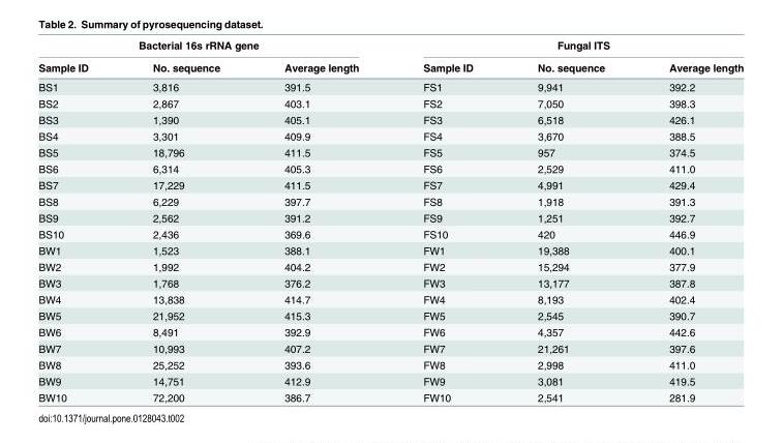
<table><thead><tr><td colspan="3">Bacterial 16s rRNA gene</td><td colspan="3">Fungal ITS</td></tr><tr><td>Sample ID</td><td>No. sequence</td><td>Average length</td><td>Sample ID</td><td>No. sequence</td><td>Average length</td></tr></thead><tbody><tr><td>BS1</td><td>3,816</td><td>391.5</td><td>FS1</td><td>9,941</td><td>392.2</td></tr><tr><td>BS2</td><td>2,867</td><td>403.1</td><td>FS2</td><td>7,050</td><td>398.3</td></tr><tr><td>BS3</td><td>1,390</td><td>405.1</td><td>FS3</td><td>6,518</td><td>426.1</td></tr><tr><td>BS4</td><td>3,301</td><td>409.9</td><td>FS4</td><td>3,670</td><td>388.5</td></tr><tr><td>BS5</td><td>18,796</td><td>411.5</td><td>FS5</td><td>957</td><td>374.5</td></tr><tr><td>BS6</td><td>6,314</td><td>405.3</td><td>FS6</td><td>2,529</td><td>411.0</td></tr><tr><td>BS7</td><td>17,229</td><td>411.5</td><td>FS7</td><td>4,991</td><td>429.4</td></tr><tr><td>BS8</td><td>6,229</td><td>397.7</td><td>FS8</td><td>1,918</td><td>391.3</td></tr><tr><td>BS9</td><td>2,562</td><td>391.2</td><td>FS9</td><td>1,251</td><td>392.7</td></tr><tr><td>BS10</td><td>2,436</td><td>369.6</td><td>FS10</td><td>420</td><td>446.9</td></tr><tr><td>BW1</td><td>1,523</td><td>388.1</td><td>FW1</td><td>19,388</td><td>400.1</td></tr><tr><td>BW2</td><td>1,992</td><td>404.2</td><td>FW2</td><td>15,294</td><td>377.9</td></tr><tr><td>BW3</td><td>1,768</td><td>376.2</td><td>FW3</td><td>13,177</td><td>387.8</td></tr><tr><td>BW4</td><td>13,838</td><td>414.7</td><td>FW4</td><td>8,193</td><td>402.4</td></tr><tr><td>BW5</td><td>21,952</td><td>415.3</td><td>FW5</td><td>2,545</td><td>390.7</td></tr><tr><td>BW6</td><td>8,491</td><td>392.9</td><td>FW6</td><td>4,357</td><td>442.6</td></tr><tr><td>BW7</td><td>10,993</td><td>407.2</td><td>FW7</td><td>21,261</td><td>397.6</td></tr><tr><td>BW8</td><td>25,252</td><td>393.6</td><td>FW8</td><td>2,998</td><td>411.0</td></tr><tr><td>BW9</td><td>14,751</td><td>412.9</td><td>FW9</td><td>3,081</td><td>419.5</td></tr><tr><td>BW10</td><td>72,200</td><td>386.7</td><td>FW10</td><td>2,541</td><td>281.9</td></tr></tbody></table>